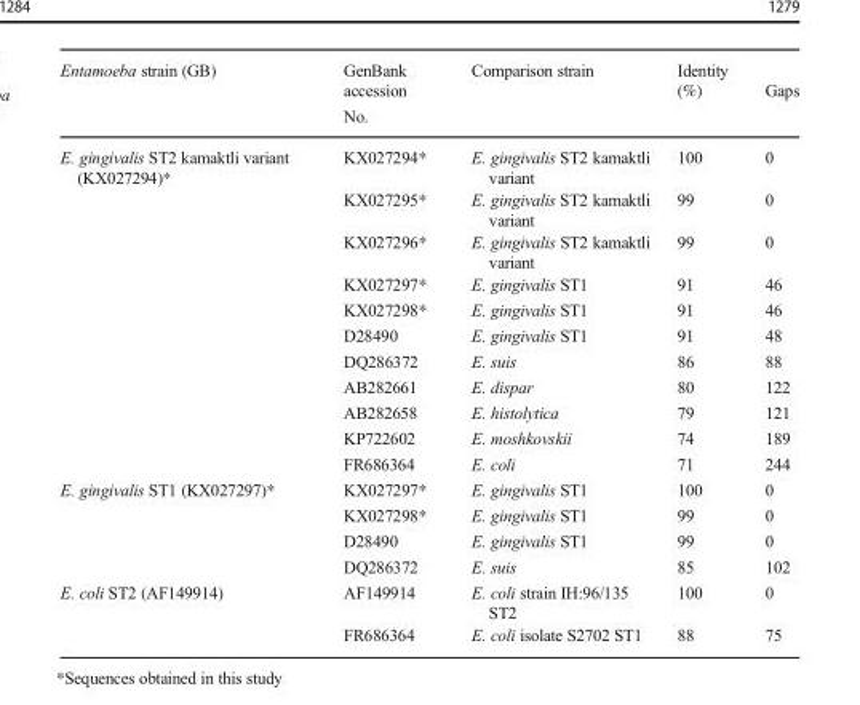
<table><thead><tr><td>Entamoeba strain (GB)</td><td>GenBank accession No.</td><td>Comparison strain</td><td>Identity (%)</td><td>Gaps</td></tr></thead><tbody><tr><td rowspan="11">E. gingivalis ST2 kamaktli variant (KX027294)*</td><td>KX027294*</td><td>E. gingivalis ST2 kamaktli variant</td><td>100</td><td>0</td></tr><tr><td>KX027295*</td><td>E. gingivalis ST2 kamaktli variant</td><td>99</td><td>0</td></tr><tr><td>KX027296*</td><td>E. gingivalis ST2 kamaktli variant</td><td>99</td><td>0</td></tr><tr><td>KX027297*</td><td>E. gingivalis ST1</td><td>91</td><td>46</td></tr><tr><td>KX027298*</td><td>E. gingivalis ST1</td><td>91</td><td>46</td></tr><tr><td>D28490</td><td>E. gingivalis ST1</td><td>91</td><td>48</td></tr><tr><td>DQ286372</td><td>E. suis</td><td>86</td><td>88</td></tr><tr><td>AB282661</td><td>E. dispar</td><td>80</td><td>122</td></tr><tr><td>AB282658</td><td>E. histolytica</td><td>79</td><td>121</td></tr><tr><td>KP722602</td><td>E. moshkovskii</td><td>74</td><td>189</td></tr><tr><td>FR686364</td><td>E. coli</td><td>71</td><td>244</td></tr><tr><td rowspan="4">E. gingivalis ST1 (KX027297)*</td><td>KX027297*</td><td>E. gingivalis ST1</td><td>100</td><td>0</td></tr><tr><td>KX027298*</td><td>E. gingivalis ST1</td><td>99</td><td>0</td></tr><tr><td>D28490</td><td>E. gingivalis ST1</td><td>99</td><td>0</td></tr><tr><td>DQ286372</td><td>E. suis</td><td>85</td><td>102</td></tr><tr><td rowspan="2">E. coli ST2 (AF149914)</td><td>AF149914</td><td>E. coli strain IH:96/135 ST2</td><td>100</td><td>0</td></tr><tr><td>FR686364</td><td>E. coli isolate S2702 ST1</td><td>88</td><td>75</td></tr></tbody></table>